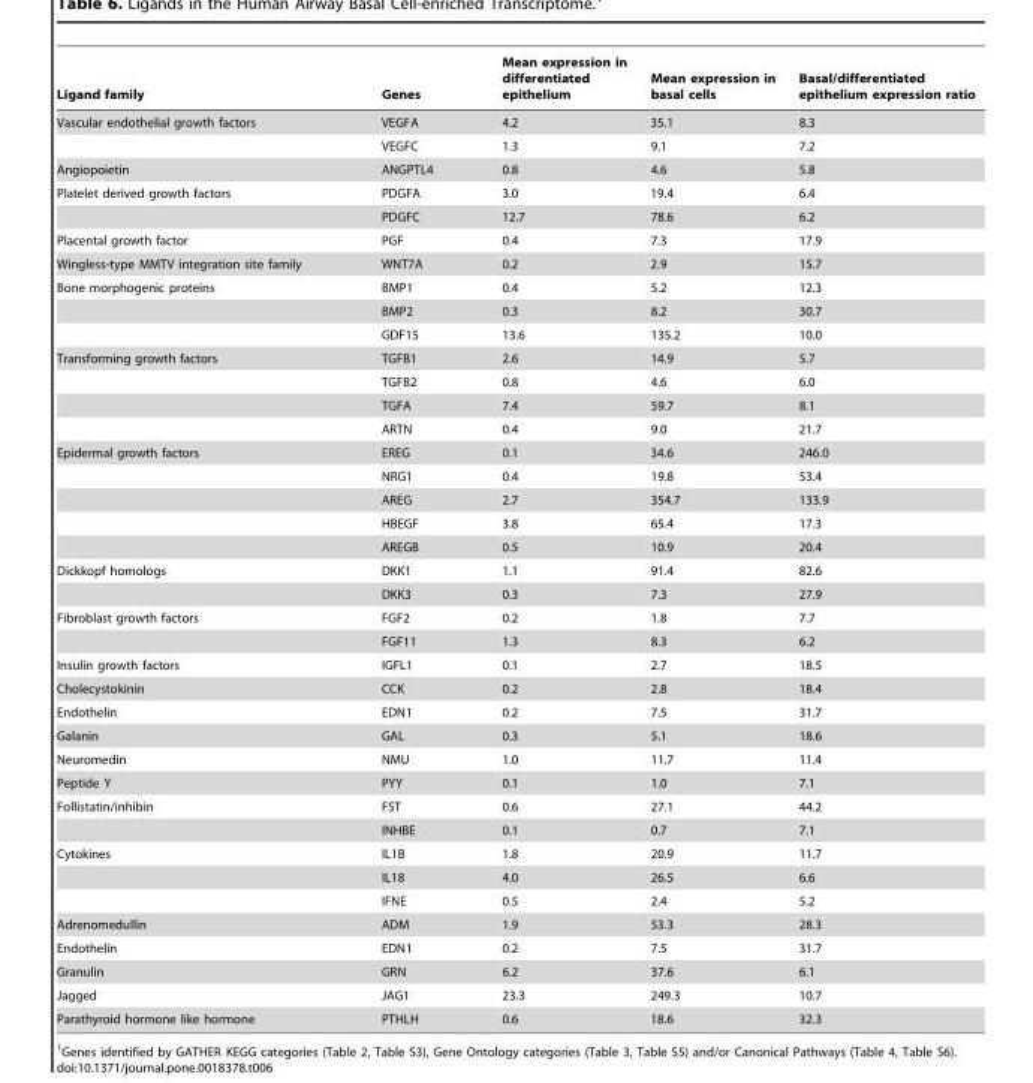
<table><thead><tr><td>Ligand family</td><td>Genes</td><td>Mean expression in differentiated epithelium</td><td>Mean expression in basal cells</td><td>Basal/differentiated epithelium expression ratio</td></tr></thead><tbody><tr><td rowspan="2">Vascular endothelial growth factors</td><td>VEGFA</td><td>4.2</td><td>35.1</td><td>8.3</td></tr><tr><td>VEGFC</td><td>1.3</td><td>9.1</td><td>7.2</td></tr><tr><td>Angiopoietin</td><td>ANGPTL4</td><td>0.8</td><td>4.6</td><td>5.8</td></tr><tr><td rowspan="2">Platelet derived growth factors</td><td>PDGFA</td><td>3.0</td><td>19.4</td><td>6.4</td></tr><tr><td>PDGFC</td><td>12.7</td><td>78.6</td><td>6.2</td></tr><tr><td>Placental growth factor</td><td>PGF</td><td>0.4</td><td>7.3</td><td>17.9</td></tr><tr><td>Wingless-type MMTV integration site family</td><td>WNT7A</td><td>0.2</td><td>2.9</td><td>15.7</td></tr><tr><td rowspan="3">Bone morphogenic proteins</td><td>BMP1</td><td>0.4</td><td>5.2</td><td>12.3</td></tr><tr><td>BMP2</td><td>0.3</td><td>8.2</td><td>30.7</td></tr><tr><td>GDF15</td><td>13.6</td><td>135.2</td><td>10.0</td></tr><tr><td rowspan="4">Transforming growth factors</td><td>TGFB1</td><td>2.6</td><td>14.9</td><td>5.7</td></tr><tr><td>TGFB2</td><td>0.8</td><td>4.6</td><td>6.0</td></tr><tr><td>TGFA</td><td>7.4</td><td>59.7</td><td>8.1</td></tr><tr><td>ARTN</td><td>0.4</td><td>9.0</td><td>21.7</td></tr><tr><td rowspan="5">Epidermal growth factors</td><td>EREG</td><td>0.1</td><td>34.6</td><td>246.0</td></tr><tr><td>NRG1</td><td>0.4</td><td>19.8</td><td>53.4</td></tr><tr><td>AREG</td><td>2.7</td><td>354.7</td><td>133.9</td></tr><tr><td>HBEGF</td><td>3.8</td><td>65.4</td><td>17.3</td></tr><tr><td>AREGB</td><td>0.5</td><td>10.9</td><td>20.4</td></tr><tr><td rowspan="2">Dickkopf homologs</td><td>DKK1</td><td>1.1</td><td>91.4</td><td>82.6</td></tr><tr><td>DKK3</td><td>0.3</td><td>7.3</td><td>27.9</td></tr><tr><td rowspan="2">Fibroblast growth factors</td><td>FGF2</td><td>0.2</td><td>1.8</td><td>7.7</td></tr><tr><td>FGF11</td><td>1.3</td><td>8.3</td><td>6.2</td></tr><tr><td>Insulin growth factors</td><td>IGFL1</td><td>0.1</td><td>2.7</td><td>18.5</td></tr><tr><td>Cholecystokinin</td><td>CCK</td><td>0.2</td><td>2.8</td><td>18.4</td></tr><tr><td>Endothelin</td><td>EDN1</td><td>0.2</td><td>7.5</td><td>31.7</td></tr><tr><td>Galanin</td><td>GAL</td><td>0.3</td><td>5.1</td><td>18.6</td></tr><tr><td>Neuromedin</td><td>NMU</td><td>1.0</td><td>11.7</td><td>11.4</td></tr><tr><td>Peptide Y</td><td>PYY</td><td>0.1</td><td>1.0</td><td>7.1</td></tr><tr><td rowspan="2">Follistatin/inhibin</td><td>FST</td><td>0.6</td><td>27.1</td><td>44.2</td></tr><tr><td>INHBE</td><td>0.1</td><td>0.7</td><td>7.1</td></tr><tr><td rowspan="3">Cytokines</td><td>IL1B</td><td>1.8</td><td>20.9</td><td>11.7</td></tr><tr><td>IL18</td><td>4.0</td><td>26.5</td><td>6.6</td></tr><tr><td>IFNE</td><td>0.5</td><td>2.4</td><td>5.2</td></tr><tr><td>Adrenomedullin</td><td>ADM</td><td>1.9</td><td>53.3</td><td>28.3</td></tr><tr><td>Endothelin</td><td>EDN1</td><td>0.2</td><td>7.5</td><td>31.7</td></tr><tr><td>Granulin</td><td>GRN</td><td>6.2</td><td>37.6</td><td>6.1</td></tr><tr><td>Jagged</td><td>JAG1</td><td>23.3</td><td>249.3</td><td>10.7</td></tr><tr><td>Parathyroid hormone like hormone</td><td>PTHLH</td><td>0.6</td><td>18.6</td><td>32.3</td></tr></tbody></table>